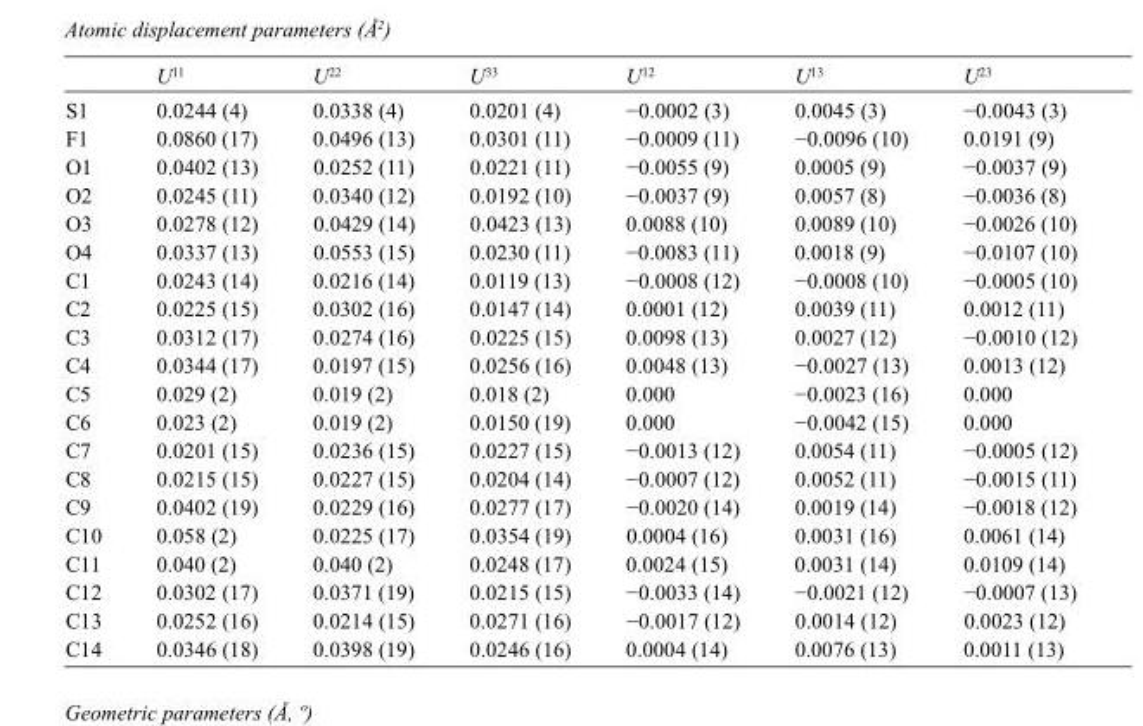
<table><thead><tr><td></td><td>U<sup>11</sup></td><td>U<sup>22</sup></td><td>U<sup>33</sup></td><td>U<sup>12</sup></td><td>U<sup>13</sup></td><td>U<sup>23</sup></td></tr></thead><tbody><tr><td>S1</td><td>0.0244 (4)</td><td>0.0338 (4)</td><td>0.0201 (4)</td><td>−0.0002 (3)</td><td>0.0045 (3)</td><td>−0.0043 (3)</td></tr><tr><td>F1</td><td>0.0860 (17)</td><td>0.0496 (13)</td><td>0.0301 (11)</td><td>−0.0009 (11)</td><td>−0.0096 (10)</td><td>0.0191 (9)</td></tr><tr><td>O1</td><td>0.0402 (13)</td><td>0.0252 (11)</td><td>0.0221 (11)</td><td>−0.0055 (9)</td><td>0.0005 (9)</td><td>−0.0037 (9)</td></tr><tr><td>O2</td><td>0.0245 (11)</td><td>0.0340 (12)</td><td>0.0192 (10)</td><td>−0.0037 (9)</td><td>0.0057 (8)</td><td>−0.0036 (8)</td></tr><tr><td>O3</td><td>0.0278 (12)</td><td>0.0429 (14)</td><td>0.0423 (13)</td><td>0.0088 (10)</td><td>0.0089 (10)</td><td>−0.0026 (10)</td></tr><tr><td>O4</td><td>0.0337 (13)</td><td>0.0553 (15)</td><td>0.0230 (11)</td><td>−0.0083 (11)</td><td>0.0018 (9)</td><td>−0.0107 (10)</td></tr><tr><td>C1</td><td>0.0243 (14)</td><td>0.0216 (14)</td><td>0.0119 (13)</td><td>−0.0008 (12)</td><td>−0.0008 (10)</td><td>−0.0005 (10)</td></tr><tr><td>C2</td><td>0.0225 (15)</td><td>0.0302 (16)</td><td>0.0147 (14)</td><td>0.0001 (12)</td><td>0.0039 (11)</td><td>0.0012 (11)</td></tr><tr><td>C3</td><td>0.0312 (17)</td><td>0.0274 (16)</td><td>0.0225 (15)</td><td>0.0098 (13)</td><td>0.0027 (12)</td><td>−0.0010 (12)</td></tr><tr><td>C4</td><td>0.0344 (17)</td><td>0.0197 (15)</td><td>0.0256 (16)</td><td>0.0048 (13)</td><td>−0.0027 (13)</td><td>0.0013 (12)</td></tr><tr><td>C5</td><td>0.029 (2)</td><td>0.019 (2)</td><td>0.018 (2)</td><td>0.000</td><td>−0.0023 (16)</td><td>0.000</td></tr><tr><td>C6</td><td>0.023 (2)</td><td>0.019 (2)</td><td>0.0150 (19)</td><td>0.000</td><td>−0.0042 (15)</td><td>0.000</td></tr><tr><td>C7</td><td>0.0201 (15)</td><td>0.0236 (15)</td><td>0.0227 (15)</td><td>−0.0013 (12)</td><td>0.0054 (11)</td><td>−0.0005 (12)</td></tr><tr><td>C8</td><td>0.0215 (15)</td><td>0.0227 (15)</td><td>0.0204 (14)</td><td>−0.0007 (12)</td><td>0.0052 (11)</td><td>−0.0015 (11)</td></tr><tr><td>C9</td><td>0.0402 (19)</td><td>0.0229 (16)</td><td>0.0277 (17)</td><td>−0.0020 (14)</td><td>0.0019 (14)</td><td>−0.0018 (12)</td></tr><tr><td>C10</td><td>0.058 (2)</td><td>0.0225 (17)</td><td>0.0354 (19)</td><td>0.0004 (16)</td><td>0.0031 (16)</td><td>0.0061 (14)</td></tr><tr><td>C11</td><td>0.040 (2)</td><td>0.040 (2)</td><td>0.0248 (17)</td><td>0.0024 (15)</td><td>0.0031 (14)</td><td>0.0109 (14)</td></tr><tr><td>C12</td><td>0.0302 (17)</td><td>0.0371 (19)</td><td>0.0215 (15)</td><td>−0.0033 (14)</td><td>−0.0021 (12)</td><td>−0.0007 (13)</td></tr><tr><td>C13</td><td>0.0252 (16)</td><td>0.0214 (15)</td><td>0.0271 (16)</td><td>−0.0017 (12)</td><td>0.0014 (12)</td><td>0.0023 (12)</td></tr><tr><td>C14</td><td>0.0346 (18)</td><td>0.0398 (19)</td><td>0.0246 (16)</td><td>0.0004 (14)</td><td>0.0076 (13)</td><td>0.0011 (13)</td></tr></tbody></table>